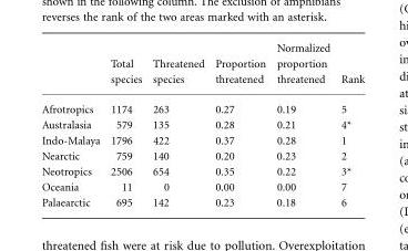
<table><thead><tr><td></td><td>Total species</td><td>Threatened species</td><td>Proportion threatened</td><td>Normalized proportion threatened</td><td>Rank</td></tr></thead><tbody><tr><td>Afrotropics</td><td>1174</td><td>263</td><td>0.27</td><td>0.19</td><td>5</td></tr><tr><td>Australasia</td><td>579</td><td>135</td><td>0.28</td><td>0.21</td><td>4*</td></tr><tr><td>Indo-Malaya</td><td>1796</td><td>422</td><td>0.37</td><td>0.28</td><td>1</td></tr><tr><td>Nearctic</td><td>759</td><td>140</td><td>0.20</td><td>0.23</td><td>2</td></tr><tr><td>Neotropics</td><td>2506</td><td>654</td><td>0.35</td><td>0.22</td><td>3*</td></tr><tr><td>Oceania</td><td>11</td><td>0</td><td>0.00</td><td>0.00</td><td>7</td></tr><tr><td>Palaearctic</td><td>695</td><td>142</td><td>0.23</td><td>0.18</td><td>6</td></tr></tbody></table>